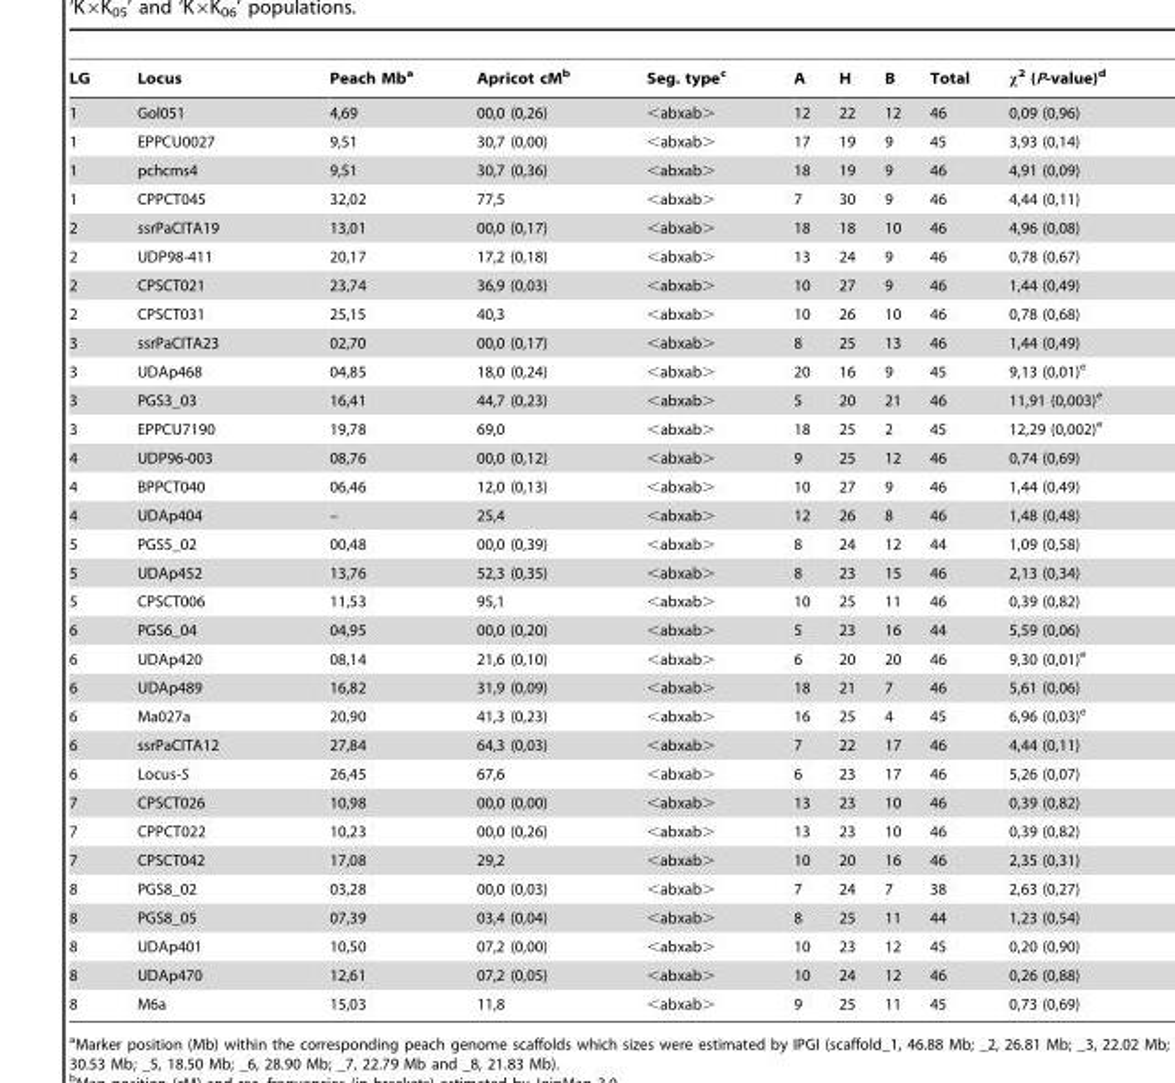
<table><thead><tr><td>LG</td><td>Locus</td><td>Peach Mb<sup>a</sup></td><td>Apricot cM<sup>b</sup></td><td>Seg. type<sup>c</sup></td><td>A</td><td>H</td><td>B</td><td>Total</td><td>x2 (P-value)d</td></tr></thead><tbody><tr><td>1</td><td>Gol051</td><td>4,69</td><td>00,0 (0,26)</td><td>&lt;abxab&gt;</td><td>12</td><td>22</td><td>12</td><td>46</td><td>0,09 (0,96)</td></tr><tr><td>1</td><td>EPPCU0027</td><td>9,51</td><td>30,7 (0,00)</td><td>&lt;abxab&gt;</td><td>17</td><td>19</td><td>9</td><td>45</td><td>3,93 (0,14)</td></tr><tr><td>1</td><td>pchcms4</td><td>9,51</td><td>30,7 (0,36)</td><td>&lt;abxab&gt;</td><td>18</td><td>19</td><td>9</td><td>46</td><td>4,91 (0,09)</td></tr><tr><td>1</td><td>CPPCT045</td><td>32,02</td><td>77,5</td><td>&lt;abxab&gt;</td><td>7</td><td>30</td><td>9</td><td>46</td><td>4,44 (0,11)</td></tr><tr><td>2</td><td>ssrPaCITA19</td><td>13,01</td><td>00,0 (0,17)</td><td>&lt;abxab&gt;</td><td>18</td><td>18</td><td>10</td><td>46</td><td>4,96 (0,08)</td></tr><tr><td>2</td><td>UDP98-411</td><td>20,17</td><td>17,2 (0,18)</td><td>&lt;abxab&gt;</td><td>13</td><td>24</td><td>9</td><td>46</td><td>0,78 (0,67)</td></tr><tr><td>2</td><td>CPSCT021</td><td>23,74</td><td>36,9 (0,03)</td><td>&lt;abxab&gt;</td><td>10</td><td>27</td><td>9</td><td>46</td><td>1,44 (0,49)</td></tr><tr><td>2</td><td>CPSCT031</td><td>25,15</td><td>40,3</td><td>&lt;abxab&gt;</td><td>10</td><td>26</td><td>10</td><td>46</td><td>0,78 (0,68)</td></tr><tr><td>3</td><td>ssrPaCITA23</td><td>02,70</td><td>00,0 (0,17)</td><td>&lt;abxab&gt;</td><td>8</td><td>25</td><td>13</td><td>46</td><td>1,44 (0,49)</td></tr><tr><td>3</td><td>UDAp468</td><td>04,85</td><td>18,0 (0,24)</td><td>&lt;abxab&gt;</td><td>20</td><td>16</td><td>9</td><td>45</td><td>9,13 (0,01)<sup>e</sup></td></tr><tr><td>3</td><td>PGS3_03</td><td>16,41</td><td>44,7 (0,23)</td><td>&lt;abxab&gt;</td><td>5</td><td>20</td><td>21</td><td>46</td><td>11,91 (0,003)<sup>e</sup></td></tr><tr><td>3</td><td>EPPCU7190</td><td>19,78</td><td>69,0</td><td>&lt;abxab&gt;</td><td>18</td><td>25</td><td>2</td><td>45</td><td>12,29 (0,002)<sup>e</sup></td></tr><tr><td>4</td><td>UDP96-003</td><td>08,76</td><td>00,0 (0,12)</td><td>&lt;abxab&gt;</td><td>9</td><td>25</td><td>12</td><td>46</td><td>0,74 (0,69)</td></tr><tr><td>4</td><td>BPPCT040</td><td>06,46</td><td>12,0 (0,13)</td><td>&lt;abxab&gt;</td><td>10</td><td>27</td><td>9</td><td>46</td><td>1,44 (0,49)</td></tr><tr><td>4</td><td>UDAp404</td><td>–</td><td>25,4</td><td>&lt;abxab&gt;</td><td>12</td><td>26</td><td>8</td><td>46</td><td>1,48 (0,48)</td></tr><tr><td>5</td><td>PGS5_02</td><td>00,48</td><td>00,0 (0,39)</td><td>&lt;abxab&gt;</td><td>8</td><td>24</td><td>12</td><td>44</td><td>1,09 (0,58)</td></tr><tr><td>5</td><td>UDAp452</td><td>13,76</td><td>52,3 (0,35)</td><td>&lt;abxab&gt;</td><td>8</td><td>23</td><td>15</td><td>46</td><td>2,13 (0,34)</td></tr><tr><td>5</td><td>CPSCT006</td><td>11,53</td><td>95,1</td><td>&lt;abxab&gt;</td><td>10</td><td>25</td><td>11</td><td>46</td><td>0,39 (0,82)</td></tr><tr><td>6</td><td>PGS6_04</td><td>04,95</td><td>00,0 (0,20)</td><td>&lt;abxab&gt;</td><td>5</td><td>23</td><td>16</td><td>44</td><td>5,59 (0,06)</td></tr><tr><td>6</td><td>UDAp420</td><td>08,14</td><td>21,6 (0,10)</td><td>&lt;abxab&gt;</td><td>6</td><td>20</td><td>20</td><td>46</td><td>9,30 (0,01)<sup>e</sup></td></tr><tr><td>6</td><td>UDAp489</td><td>16,82</td><td>31,9 (0,09)</td><td>&lt;abxab&gt;</td><td>18</td><td>21</td><td>7</td><td>46</td><td>5,61 (0,06)</td></tr><tr><td>6</td><td>Ma027a</td><td>20,90</td><td>41,3 (0,23)</td><td>&lt;abxab&gt;</td><td>16</td><td>25</td><td>4</td><td>45</td><td>6,96 (0,03)<sup>e</sup></td></tr><tr><td>6</td><td>ssrPaCITA12</td><td>27,84</td><td>64,3 (0,03)</td><td>&lt;abxab&gt;</td><td>7</td><td>22</td><td>17</td><td>46</td><td>4,44 (0,11)</td></tr><tr><td>6</td><td>Locus-S</td><td>26,45</td><td>67,6</td><td>&lt;abxab&gt;</td><td>6</td><td>23</td><td>17</td><td>46</td><td>5,26 (0,07)</td></tr><tr><td>7</td><td>CPSCT026</td><td>10,98</td><td>00,0 (0,00)</td><td>&lt;abxab&gt;</td><td>13</td><td>23</td><td>10</td><td>46</td><td>0,39 (0,82)</td></tr><tr><td>7</td><td>CPPCT022</td><td>10,23</td><td>00,0 (0,26)</td><td>&lt;abxab&gt;</td><td>13</td><td>23</td><td>10</td><td>46</td><td>0,39 (0,82)</td></tr><tr><td>7</td><td>CPSCT042</td><td>17,08</td><td>29,2</td><td>&lt;abxab&gt;</td><td>10</td><td>20</td><td>16</td><td>46</td><td>2,35 (0,31)</td></tr><tr><td>8</td><td>PGS8_02</td><td>03,28</td><td>00,0 (0,03)</td><td>&lt;abxab&gt;</td><td>7</td><td>24</td><td>7</td><td>38</td><td>2,63 (0,27)</td></tr><tr><td>8</td><td>PGS8_05</td><td>07,39</td><td>03,4 (0,04)</td><td>&lt;abxab&gt;</td><td>8</td><td>25</td><td>11</td><td>44</td><td>1,23 (0,54)</td></tr><tr><td>8</td><td>UDAp401</td><td>10,50</td><td>07,2 (0,00)</td><td>&lt;abxab&gt;</td><td>10</td><td>23</td><td>12</td><td>45</td><td>0,20 (0,90)</td></tr><tr><td>8</td><td>UDAp470</td><td>12,61</td><td>07,2 (0,05)</td><td>&lt;abxab&gt;</td><td>10</td><td>24</td><td>12</td><td>46</td><td>0,26 (0,88)</td></tr><tr><td>8</td><td>M6a</td><td>15,03</td><td>11,8</td><td>&lt;abxab&gt;</td><td>9</td><td>25</td><td>11</td><td>45</td><td>0,73 (0,69)</td></tr></tbody></table>